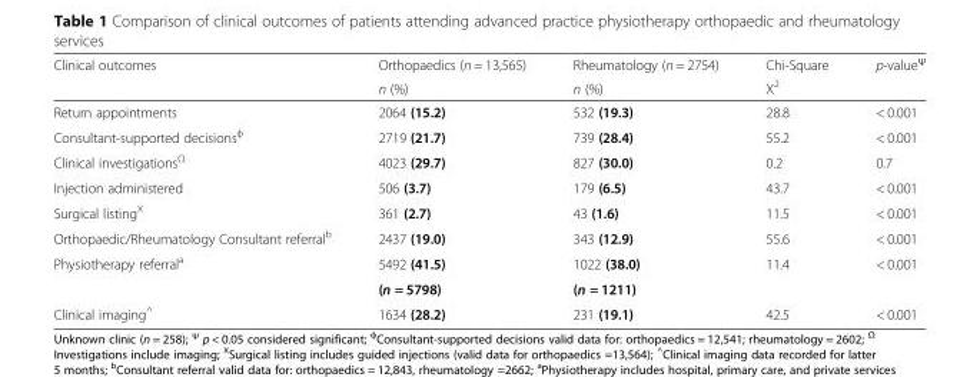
<table><thead><tr><td rowspan="2">Clinical outcomes</td><td rowspan="2">Orthopaedics (n = 13,565) n (%)</td><td rowspan="2">Rheumatology (n = 2754) n (%)</td><td rowspan="2">Chi-Square Χ<sup>2</sup></td><td rowspan="2">p-value<sup>ѱ</sup></td></tr><tr></tr></thead><tbody><tr><td>Return appointments</td><td>2064 (15.2)</td><td>532 (19.3)</td><td>28.8</td><td>&lt; 0.001</td></tr><tr><td>Consultant-supported decisions<sup>ф</sup></td><td>2719 (21.7)</td><td>739 (28.4)</td><td>55.2</td><td>&lt; 0.001</td></tr><tr><td>Clinical investigations<sup>Ω</sup></td><td>4023 (29.7)</td><td>827 (30.0)</td><td>0.2</td><td>0.7</td></tr><tr><td>Injection administered</td><td>506 (3.7)</td><td>179 (6.5)</td><td>43.7</td><td>&lt; 0.001</td></tr><tr><td>Surgical listing<sup>Χ</sup></td><td>361 (2.7)</td><td>43 (1.6)</td><td>11.5</td><td>&lt; 0.001</td></tr><tr><td>Orthopaedic/Rheumatology Consultant referral<sup>b</sup></td><td>2437 (19.0)</td><td>343 (12.9)</td><td>55.6</td><td>&lt; 0.001</td></tr><tr><td rowspan="2">Physiotherapy referral<sup>a</sup></td><td>5492 (41.5)</td><td>1022 (38.0)</td><td>11.4</td><td>&lt; 0.001</td></tr><tr><td>(n = 5798)</td><td>(n = 1211)</td><td></td><td></td></tr><tr><td>Clinical imaging<sup>^</sup></td><td>1634 (28.2)</td><td>231 (19.1)</td><td>42.5</td><td>&lt; 0.001</td></tr></tbody></table>